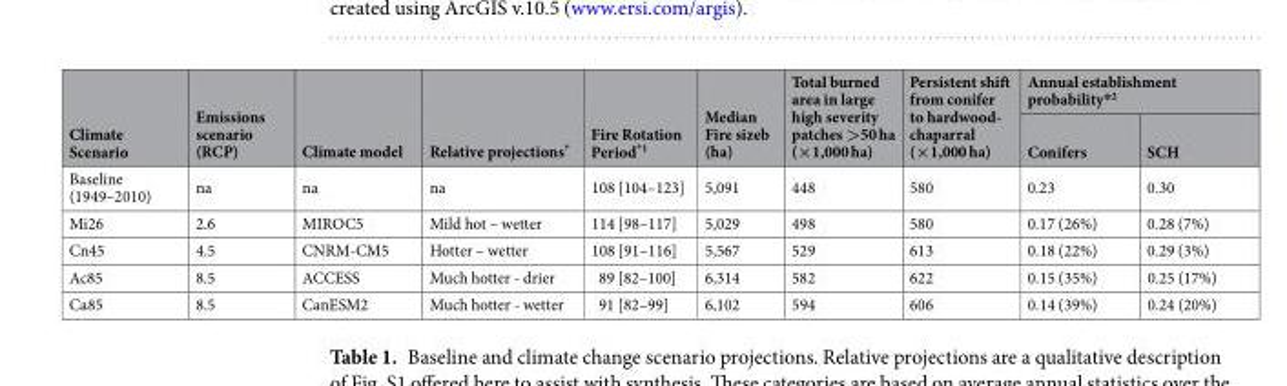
<table><thead><tr><td rowspan="2">Climate Scenario</td><td rowspan="2">Emissions scenario (RCP)</td><td rowspan="2">Climate model</td><td rowspan="2">Relative projections*</td><td rowspan="2">Fire Rotation Period<sup>*1</sup></td><td rowspan="2">Median Fire sizeb (ha)</td><td rowspan="2">Total burned area in large high severity patches &gt;50 ha (×1,000 ha)</td><td rowspan="2">Persistent shift from conifer to hardwood- chaparral (×1,000 ha)</td><td colspan="2">Annual establishment probability*<sup>2</sup></td></tr><tr><td>Conifers</td><td>SCH</td></tr></thead><tbody><tr><td>Baseline (1949–2010)</td><td>na</td><td>na</td><td>na</td><td>108 [104–123]</td><td>5,091</td><td>448</td><td>580</td><td>0.23</td><td>0.30</td></tr><tr><td>Mi26</td><td>2.6</td><td>MIROC5</td><td>Mild hot – wetter</td><td>114 [98–117]</td><td>5,029</td><td>498</td><td>580</td><td>0.17 (26%)</td><td>0.28 (7%)</td></tr><tr><td>Cn45</td><td>4.5</td><td>CNRM-CM5</td><td>Hotter – wetter</td><td>108 [91–116]</td><td>5,567</td><td>529</td><td>613</td><td>0.18 (22%)</td><td>0.29 (3%)</td></tr><tr><td>Ac85</td><td>8.5</td><td>ACCESS</td><td>Much hotter - drier</td><td>89 [82–100]</td><td>6,314</td><td>582</td><td>622</td><td>0.15 (35%)</td><td>0.25 (17%)</td></tr><tr><td>Ca85</td><td>8.5</td><td>CanESM2</td><td>Much hotter - wetter</td><td>91 [82–99]</td><td>6,102</td><td>594</td><td>606</td><td>0.14 (39%)</td><td>0.24 (20%)</td></tr></tbody></table>